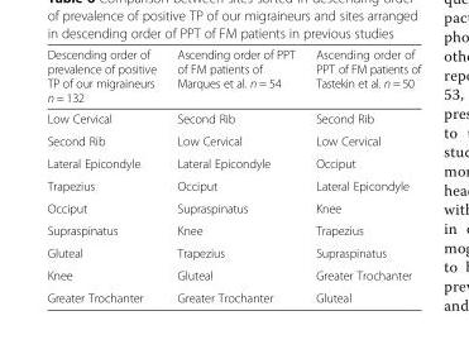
<table><thead><tr><td>Descending order of prevalence of positive TP of our migraineurs n = 132</td><td>Ascending order of PPT of FM patients of Marques et al. n = 54</td><td>Ascending order of PPT of FM patients of Tastekin et al. n = 50</td></tr></thead><tbody><tr><td>Low Cervical</td><td>Second Rib</td><td>Second Rib</td></tr><tr><td>Second Rib</td><td>Low Cervical</td><td>Low Cervical</td></tr><tr><td>Lateral Epicondyle</td><td>Lateral Epicondyle</td><td>Occiput</td></tr><tr><td>Trapezius</td><td>Occiput</td><td>Lateral Epicondyle</td></tr><tr><td>Occiput</td><td>Supraspinatus</td><td>Knee</td></tr><tr><td>Supraspinatus</td><td>Knee</td><td>Trapezius</td></tr><tr><td>Gluteal</td><td>Trapezius</td><td>Supraspinatus</td></tr><tr><td>Knee</td><td>Gluteal</td><td>Greater Trochanter</td></tr><tr><td>Greater Trochanter</td><td>Greater Trochanter</td><td>Gluteal</td></tr></tbody></table>